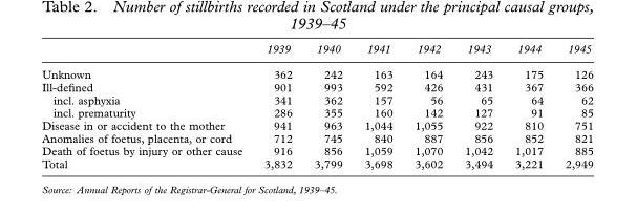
<table><thead><tr><td></td><td>1939</td><td>1940</td><td>1941</td><td>1942</td><td>1943</td><td>1944</td><td>1945</td></tr></thead><tbody><tr><td>Unknown</td><td>362</td><td>242</td><td>163</td><td>164</td><td>243</td><td>175</td><td>126</td></tr><tr><td>Ill-defined</td><td>901</td><td>993</td><td>592</td><td>426</td><td>431</td><td>367</td><td>366</td></tr><tr><td>incl. asphyxia</td><td>341</td><td>362</td><td>157</td><td>56</td><td>65</td><td>64</td><td>62</td></tr><tr><td>incl. prematurity</td><td>286</td><td>355</td><td>160</td><td>142</td><td>127</td><td>91</td><td>85</td></tr><tr><td>Disease in or accident to the mother</td><td>941</td><td>963</td><td>1,044</td><td>1,055</td><td>922</td><td>810</td><td>751</td></tr><tr><td>Anomalies of foetus, placenta, or cord</td><td>712</td><td>745</td><td>840</td><td>887</td><td>856</td><td>852</td><td>821</td></tr><tr><td>Death of foetus by injury or other cause</td><td>916</td><td>856</td><td>1,059</td><td>1,070</td><td>1,042</td><td>1,017</td><td>885</td></tr><tr><td>Total</td><td>3,832</td><td>3,799</td><td>3,698</td><td>3,602</td><td>3,494</td><td>3,221</td><td>2,949</td></tr></tbody></table>